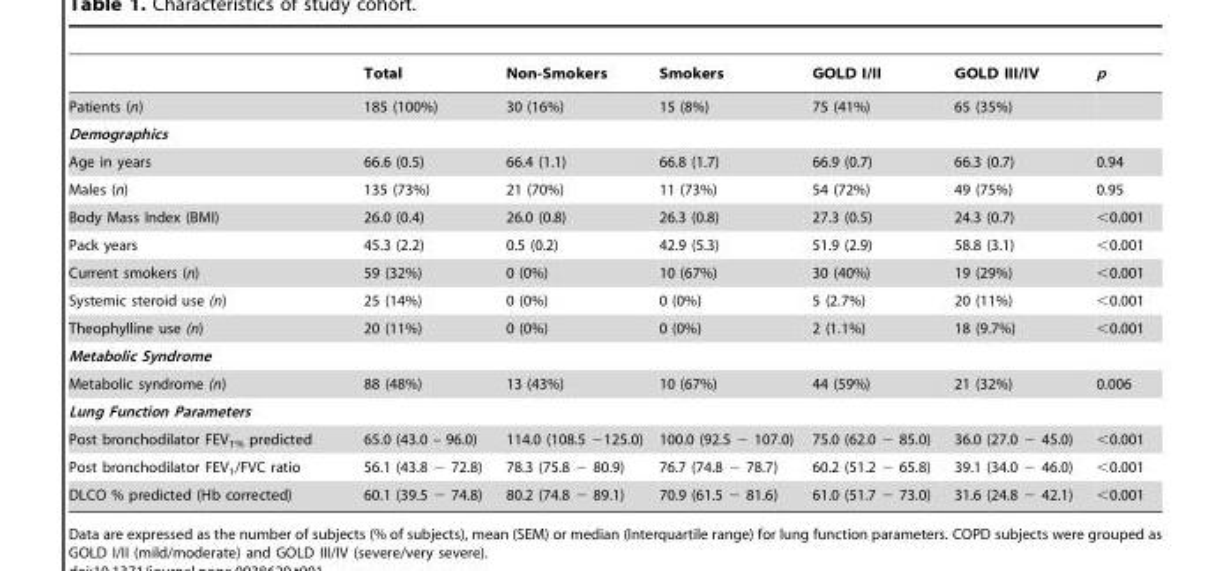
<table><thead><tr><td></td><td>Total</td><td>Non-Smokers</td><td>Smokers</td><td>GOLD I/II</td><td>GOLD III/IV</td><td>p</td></tr></thead><tbody><tr><td>Patients (n)</td><td>185 (100%)</td><td>30 (16%)</td><td>15 (8%)</td><td>75 (41%)</td><td>65 (35%)</td><td></td></tr><tr><td colspan="7">Demographics</td></tr><tr><td>Age in years</td><td>66.6 (0.5)</td><td>66.4 (1.1)</td><td>66.8 (1.7)</td><td>66.9 (0.7)</td><td>66.3 (0.7)</td><td>0.94</td></tr><tr><td>Males (n)</td><td>135 (73%)</td><td>21 (70%)</td><td>11 (73%)</td><td>54 (72%)</td><td>49 (75%)</td><td>0.95</td></tr><tr><td>Body Mass Index (BMI)</td><td>26.0 (0.4)</td><td>26.0 (0.8)</td><td>26.3 (0.8)</td><td>27.3 (0.5)</td><td>24.3 (0.7)</td><td>&lt;0.001</td></tr><tr><td>Pack years</td><td>45.3 (2.2)</td><td>0.5 (0.2)</td><td>42.9 (5.3)</td><td>51.9 (2.9)</td><td>58.8 (3.1)</td><td>&lt;0.001</td></tr><tr><td>Current smokers (n)</td><td>59 (32%)</td><td>0 (0%)</td><td>10 (67%)</td><td>30 (40%)</td><td>19 (29%)</td><td>&lt;0.001</td></tr><tr><td>Systemic steroid use (n)</td><td>25 (14%)</td><td>0 (0%)</td><td>0 (0%)</td><td>5 (2.7%)</td><td>20 (11%)</td><td>&lt;0.001</td></tr><tr><td>Theophylline use (n)</td><td>20 (11%)</td><td>0 (0%)</td><td>0 (0%)</td><td>2 (1.1%)</td><td>18 (9.7%)</td><td>&lt;0.001</td></tr><tr><td colspan="7">Metabolic Syndrome</td></tr><tr><td>Metabolic syndrome (n)</td><td>88 (48%)</td><td>13 (43%)</td><td>10 (67%)</td><td>44 (59%)</td><td>21 (32%)</td><td>0.006</td></tr><tr><td colspan="7">Lung Function Parameters</td></tr><tr><td>Post bronchodilator FEV<sub>1%</sub> predicted</td><td>65.0 (43.0 – 96.0)</td><td>114.0 (108.5 −125.0)</td><td>100.0 (92.5 − 107.0)</td><td>75.0 (62.0 − 85.0)</td><td>36.0 (27.0 − 45.0)</td><td>&lt;0.001</td></tr><tr><td>Post bronchodilator FEV<sub>1</sub>/FVC ratio</td><td>56.1 (43.8 − 72.8)</td><td>78.3 (75.8 − 80.9)</td><td>76.7 (74.8 − 78.7)</td><td>60.2 (51.2 − 65.8)</td><td>39.1 (34.0 − 46.0)</td><td>&lt;0.001</td></tr><tr><td>DLCO % predicted (Hb corrected)</td><td>60.1 (39.5 − 74.8)</td><td>80.2 (74.8 − 89.1)</td><td>70.9 (61.5 − 81.6)</td><td>61.0 (51.7 − 73.0)</td><td>31.6 (24.8 − 42.1)</td><td>&lt;0.001</td></tr></tbody></table>